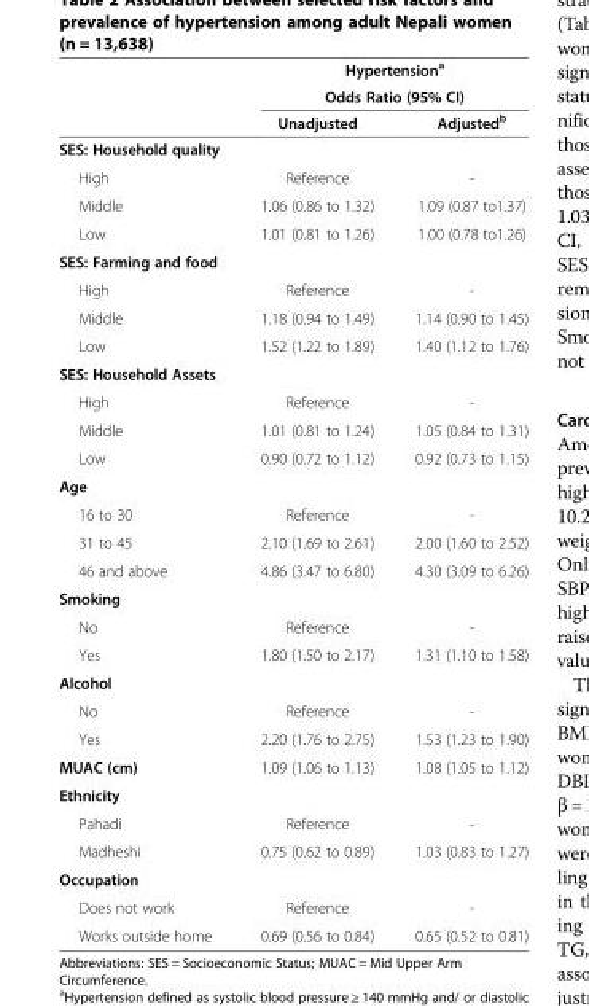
<table><thead><tr><td rowspan="3"></td><td rowspan="2" colspan="2">Hypertension<sup>a</sup> Odds Ratio (95% CI)</td></tr><tr></tr><tr><td>Unadjusted</td><td>Adjusted<sup>b</sup></td></tr></thead><tbody><tr><td colspan="3">SES: Household quality</td></tr><tr><td>High</td><td>Reference</td><td>-</td></tr><tr><td>Middle</td><td>1.06 (0.86 to 1.32)</td><td>1.09 (0.87 to1.37)</td></tr><tr><td>Low</td><td>1.01 (0.81 to 1.26)</td><td>1.00 (0.78 to1.26)</td></tr><tr><td colspan="3">SES: Farming and food</td></tr><tr><td>High</td><td>Reference</td><td>-</td></tr><tr><td>Middle</td><td>1.18 (0.94 to 1.49)</td><td>1.14 (0.90 to 1.45)</td></tr><tr><td>Low</td><td>1.52 (1.22 to 1.89)</td><td>1.40 (1.12 to 1.76)</td></tr><tr><td colspan="3">SES: Household Assets</td></tr><tr><td>High</td><td>Reference</td><td>-</td></tr><tr><td>Middle</td><td>1.01 (0.81 to 1.24)</td><td>1.05 (0.84 to 1.31)</td></tr><tr><td>Low</td><td>0.90 (0.72 to 1.12)</td><td>0.92 (0.73 to 1.15)</td></tr><tr><td colspan="3">Age</td></tr><tr><td>16 to 30</td><td>Reference</td><td>-</td></tr><tr><td>31 to 45</td><td>2.10 (1.69 to 2.61)</td><td>2.00 (1.60 to 2.52)</td></tr><tr><td>46 and above</td><td>4.86 (3.47 to 6.80)</td><td>4.30 (3.09 to 6.26)</td></tr><tr><td colspan="3">Smoking</td></tr><tr><td>No</td><td>Reference</td><td>-</td></tr><tr><td>Yes</td><td>1.80 (1.50 to 2.17)</td><td>1.31 (1.10 to 1.58)</td></tr><tr><td colspan="3">Alcohol</td></tr><tr><td>No</td><td>Reference</td><td>-</td></tr><tr><td>Yes</td><td>2.20 (1.76 to 2.75)</td><td>1.53 (1.23 to 1.90)</td></tr><tr><td>MUAC (cm)</td><td>1.09 (1.06 to 1.13)</td><td>1.08 (1.05 to 1.12)</td></tr><tr><td colspan="3">Ethnicity</td></tr><tr><td>Pahadi</td><td>Reference</td><td>-</td></tr><tr><td>Madheshi</td><td>0.75 (0.62 to 0.89)</td><td>1.03 (0.83 to 1.27)</td></tr><tr><td colspan="3">Occupation</td></tr><tr><td>Does not work</td><td>Reference</td><td>-</td></tr><tr><td>Works outside home</td><td>0.69 (0.56 to 0.84)</td><td>0.65 (0.52 to 0.81)</td></tr></tbody></table>